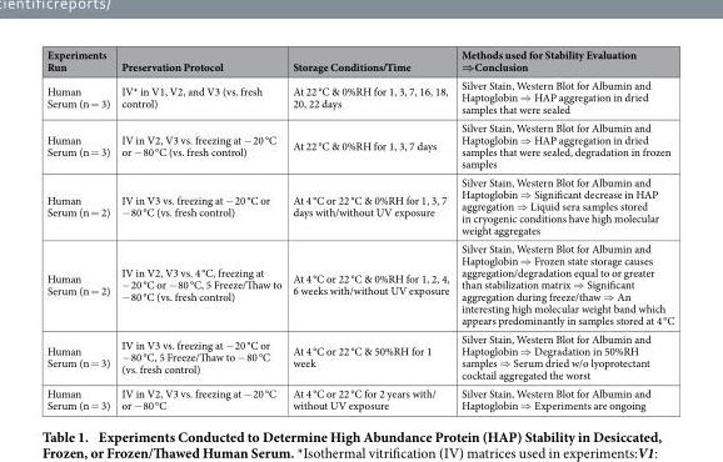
<table><thead><tr><td>Experiments Run</td><td>Preservation Protocol</td><td>Storage Conditions/Time</td><td>Methods used for Stability Evaluation ⇒Conclusion</td></tr></thead><tbody><tr><td>Human Serum (n = 3)</td><td>IV* in V1, V2, and V3 (vs. fresh control)</td><td>At 22 °C &amp; 0%RH for 1, 3, 7, 16, 18, 20, 22 days</td><td>Silver Stain, Western Blot for Albumin and Haptoglobin ⇒ HAP aggregation in dried samples that were sealed</td></tr><tr><td>Human Serum (n = 3)</td><td>IV in V2, V3 vs. freezing at − 20 °C or − 80 °C (vs. fresh control)</td><td>At 22 °C &amp; 0%RH for 1, 3, 7 days</td><td>Silver Stain, Western Blot for Albumin and Haptoglobin ⇒ HAP aggregation in dried samples that were sealed, degradation in frozen samples</td></tr><tr><td>Human Serum (n = 2)</td><td>IV in V3 vs. freezing at − 20 °C or − 80 °C (vs. fresh control)</td><td>At 4 °C or 22 °C &amp; 0%RH for 1, 3, 7 days with/without UV exposure</td><td>Silver Stain, Western Blot for Albumin and Haptoglobin ⇒ Significant decrease in HAP aggregation ⇒ Liquid sera samples stored in cryogenic conditions have high molecular weight aggregates</td></tr><tr><td>Human Serum (n = 2)</td><td>IV in V2, V3 vs. 4 °C, freezing at − 20 °C or − 80 °C, 5 Freeze/Thaw to − 80 °C (vs. fresh control)</td><td>At 4 °C or 22 °C &amp; 0%RH for 1, 2, 4, 6 weeks with/without UV exposure</td><td>Silver Stain, Western Blot for Albumin and Haptoglobin ⇒ Frozen state storage causes aggregation/degradation equal to or greater than stabilization matrix ⇒ Significant aggregation during freeze/thaw ⇒ An interesting high molecular weight band which appears predominantly in samples stored at 4 °C</td></tr><tr><td>Human Serum (n = 3)</td><td>IV in V3 vs. freezing at − 20 °C or − 80 °C, 5 Freeze/Thaw to − 80 °C (vs. fresh control)</td><td>At 4 °C or 22 °C &amp; 50%RH for 1 week</td><td>Silver Stain, Western Blot for Albumin and Haptoglobin ⇒ Degradation in 50%RH samples ⇒ Serum dried w/o lyoprotectant cocktail aggregated the worst</td></tr><tr><td>Human Serum (n = 3)</td><td>IV in V2, V3 vs. freezing at − 20 °C or − 80 °C</td><td>At 4 °C or 22 °C for 2 years with/ without UV exposure</td><td>Silver Stain, Western Blot for Albumin and Haptoglobin ⇒ Experiments are ongoing</td></tr></tbody></table>